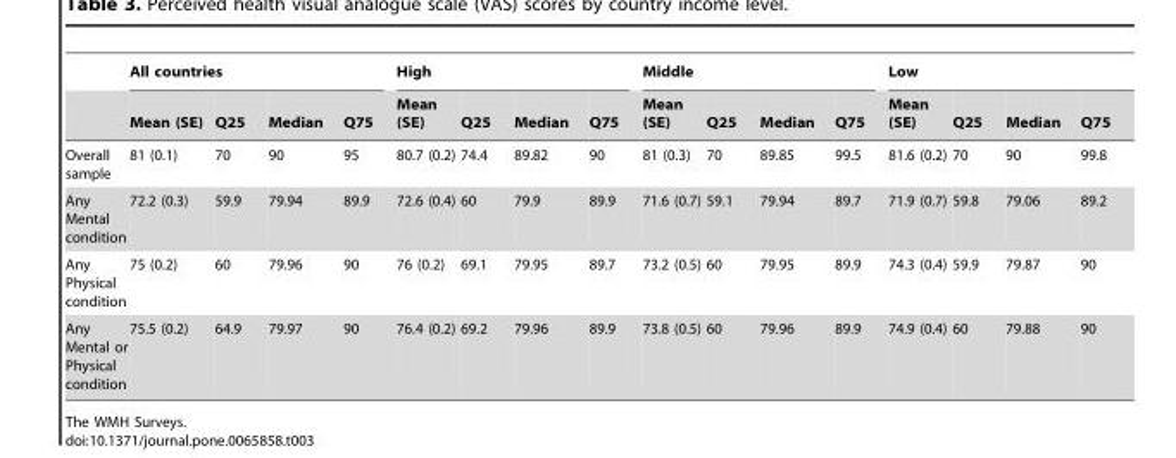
<table><thead><tr><td rowspan="2"></td><td colspan="4">All countries</td><td colspan="4">High</td><td colspan="4">Middle</td><td colspan="4">Low</td></tr><tr><td>Mean (SE)</td><td>Q25</td><td>Median</td><td>Q75</td><td>Mean (SE)</td><td>Q25</td><td>Median</td><td>Q75</td><td>Mean (SE)</td><td>Q25</td><td>Median</td><td>Q75</td><td>Mean (SE)</td><td>Q25</td><td>Median</td><td>Q75</td></tr></thead><tbody><tr><td>Overall sample</td><td>81 (0.1)</td><td>70</td><td>90</td><td>95</td><td>80.7 (0.2)</td><td>74.4</td><td>89.82</td><td>90</td><td>81 (0.3)</td><td>70</td><td>89.85</td><td>99.5</td><td>81.6 (0.2)</td><td>70</td><td>90</td><td>99.8</td></tr><tr><td>Any Mental condition</td><td>72.2 (0.3)</td><td>59.9</td><td>79.94</td><td>89.9</td><td>72.6 (0.4)</td><td>60</td><td>79.9</td><td>89.9</td><td>71.6 (0.7)</td><td>59.1</td><td>79.94</td><td>89.7</td><td>71.9 (0.7)</td><td>59.8</td><td>79.06</td><td>89.2</td></tr><tr><td>Any Physical condition</td><td>75 (0.2)</td><td>60</td><td>79.96</td><td>90</td><td>76 (0.2)</td><td>69.1</td><td>79.95</td><td>89.7</td><td>73.2 (0.5)</td><td>60</td><td>79.95</td><td>89.9</td><td>74.3 (0.4)</td><td>59.9</td><td>79.87</td><td>90</td></tr><tr><td>Any Mental or Physical condition</td><td>75.5 (0.2)</td><td>64.9</td><td>79.97</td><td>90</td><td>76.4 (0.2)</td><td>69.2</td><td>79.96</td><td>89.9</td><td>73.8 (0.5)</td><td>60</td><td>79.96</td><td>89.9</td><td>74.9 (0.4)</td><td>60</td><td>79.88</td><td>90</td></tr></tbody></table>